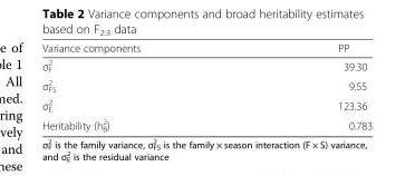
<table><thead><tr><td>Variance components</td><td>PP</td></tr></thead><tbody><tr><td>σ<sup>2</sup> <sub>F</sub></td><td>39.30</td></tr><tr><td>σ<sup>2</sup> <sub>FS</sub></td><td>9.55</td></tr><tr><td>σ<sup>2</sup> <sub>E</sub></td><td>123.36</td></tr><tr><td>Heritability (h<sup>2</sup> <sub>B</sub>)</td><td>0.783</td></tr></tbody></table>